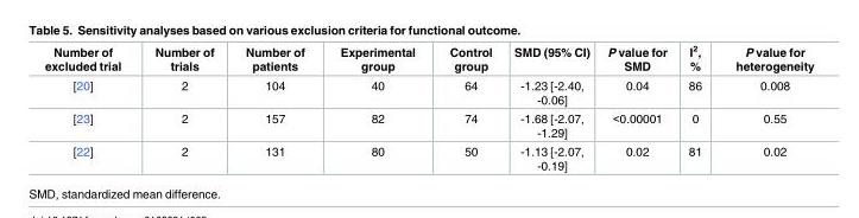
<table><thead><tr><td>Number of excluded trial</td><td>Number of trials</td><td>Number of patients</td><td>Experimental group</td><td>Control group</td><td>SMD (95% CI)</td><td>P value for SMD</td><td>I<sup>2</sup>, %</td><td>P value for heterogeneity</td></tr></thead><tbody><tr><td>[20]</td><td>2</td><td>104</td><td>40</td><td>64</td><td>-1.23 [-2.40, -0.06]</td><td>0.04</td><td>86</td><td>0.008</td></tr><tr><td>[23]</td><td>2</td><td>157</td><td>82</td><td>74</td><td>-1.68 [-2.07, -1.29]</td><td>&lt;0.00001</td><td>0</td><td>0.55</td></tr><tr><td>[22]</td><td>2</td><td>131</td><td>80</td><td>50</td><td>-1.13 [-2.07, -0.19]</td><td>0.02</td><td>81</td><td>0.02</td></tr></tbody></table>